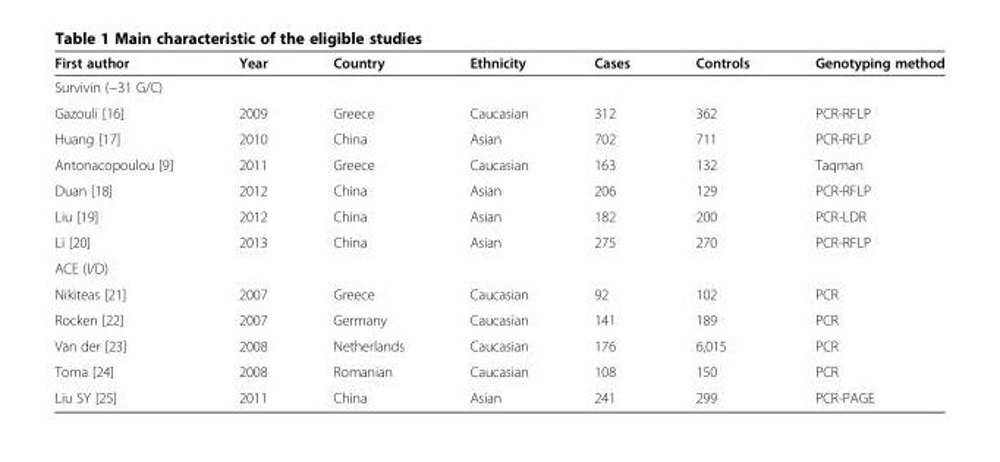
<table><thead><tr><td>First author</td><td>Year</td><td>Country</td><td>Ethnicity</td><td>Cases</td><td>Controls</td><td>Genotyping method</td></tr></thead><tbody><tr><td colspan="7">Survivin (−31 G/C)</td></tr><tr><td>Gazouli [16]</td><td>2009</td><td>Greece</td><td>Caucasian</td><td>312</td><td>362</td><td>PCR-RFLP</td></tr><tr><td>Huang [17]</td><td>2010</td><td>China</td><td>Asian</td><td>702</td><td>711</td><td>PCR-RFLP</td></tr><tr><td>Antonacopoulou [9]</td><td>2011</td><td>Greece</td><td>Caucasian</td><td>163</td><td>132</td><td>Taqman</td></tr><tr><td>Duan [18]</td><td>2012</td><td>China</td><td>Asian</td><td>206</td><td>129</td><td>PCR-RFLP</td></tr><tr><td>Liu [19]</td><td>2012</td><td>China</td><td>Asian</td><td>182</td><td>200</td><td>PCR-LDR</td></tr><tr><td>Li [20]</td><td>2013</td><td>China</td><td>Asian</td><td>275</td><td>270</td><td>PCR-RFLP</td></tr><tr><td colspan="7">ACE (I/D)</td></tr><tr><td>Nikiteas [21]</td><td>2007</td><td>Greece</td><td>Caucasian</td><td>92</td><td>102</td><td>PCR</td></tr><tr><td>Rocken [22]</td><td>2007</td><td>Germany</td><td>Caucasian</td><td>141</td><td>189</td><td>PCR</td></tr><tr><td>Van der [23]</td><td>2008</td><td>Netherlands</td><td>Caucasian</td><td>176</td><td>6,015</td><td>PCR</td></tr><tr><td>Toma [24]</td><td>2008</td><td>Romanian</td><td>Caucasian</td><td>108</td><td>150</td><td>PCR</td></tr><tr><td>Liu SY [25]</td><td>2011</td><td>China</td><td>Asian</td><td>241</td><td>299</td><td>PCR-PAGE</td></tr></tbody></table>